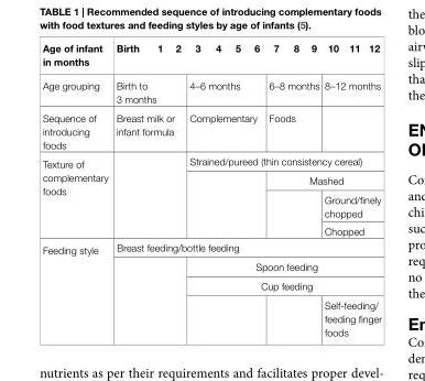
<table><thead><tr><td>Age of infant in months</td><td>Birth</td><td>1</td><td>2</td><td>3</td><td>4</td><td>5</td><td>6</td><td>7</td><td>8</td><td>9</td><td>10</td><td>11</td><td>12</td></tr></thead><tbody><tr><td>Age grouping</td><td colspan="3">Birth to 3 months</td><td colspan="4">4–6 months</td><td colspan="3">6–8 months</td><td colspan="3">8–12 months</td></tr><tr><td>Sequence of introducing foods</td><td colspan="3">Breast milk or infant formula</td><td colspan="4">Complementary</td><td colspan="3">Foods</td><td colspan="3"></td></tr><tr><td rowspan="4">Texture of complementary foods</td><td rowspan="4" colspan="3"></td><td colspan="10">Strained/pureed (thin consistency cereal)</td></tr><tr><td rowspan="3" colspan="4"></td><td colspan="6">Mashed</td></tr><tr><td rowspan="2" colspan="3"></td><td colspan="3">Ground/finely chopped</td></tr><tr><td colspan="3">Chopped</td></tr><tr><td rowspan="4">Feeding style</td><td colspan="13">Breast feeding/bottle feeding</td></tr><tr><td rowspan="3" colspan="3"></td><td colspan="10">Spoon feeding</td></tr><tr><td colspan="10">Cup feeding</td></tr><tr><td colspan="4"></td><td colspan="3"></td><td colspan="3">Self-feeding/ feeding finger foods</td></tr></tbody></table>